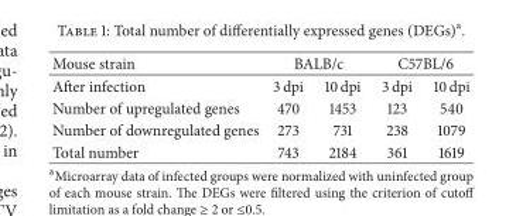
<table><thead><tr><td rowspan="2">Mouse strain After infection</td><td colspan="2">BALB/c</td><td colspan="2">C57BL/6</td></tr><tr><td>3 dpi</td><td>10 dpi</td><td>3 dpi</td><td>10 dpi</td></tr></thead><tbody><tr><td>Number of upregulated genes</td><td>470</td><td>1453</td><td>123</td><td>540</td></tr><tr><td>Number of downregulated genes</td><td>273</td><td>731</td><td>238</td><td>1079</td></tr><tr><td>Total number</td><td>743</td><td>2184</td><td>361</td><td>1619</td></tr></tbody></table>